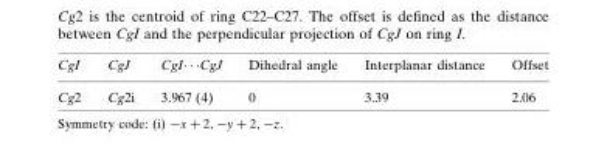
<table><tbody><tr><td>CgI</td><td>CgJ</td><td>CgI· · ·CgJ</td><td>Dihedral angle</td><td>Interplanar distance</td><td>Offset</td></tr><tr><td>Cg2</td><td>Cg2i</td><td>3.967 (4)</td><td>0</td><td>3.39</td><td>2.06</td></tr></tbody></table>